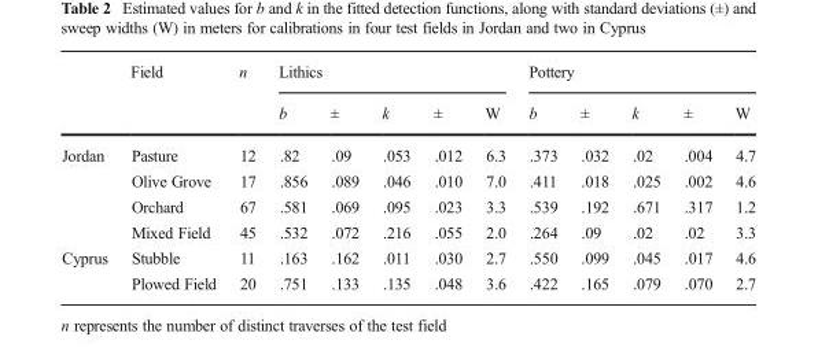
<table><thead><tr><td rowspan="2"></td><td rowspan="2">Field</td><td rowspan="2">n</td><td colspan="5">Lithics</td><td colspan="5">Pottery</td></tr><tr><td>b</td><td>±</td><td>k</td><td>±</td><td>W</td><td>b</td><td>±</td><td>k</td><td>±</td><td>W</td></tr></thead><tbody><tr><td rowspan="4">Jordan</td><td>Pasture</td><td>12</td><td>.82</td><td>.09</td><td>.053</td><td>.012</td><td>6.3</td><td>.373</td><td>.032</td><td>.02</td><td>.004</td><td>4.7</td></tr><tr><td>Olive Grove</td><td>17</td><td>.856</td><td>.089</td><td>.046</td><td>.010</td><td>7.0</td><td>.411</td><td>.018</td><td>.025</td><td>.002</td><td>4.6</td></tr><tr><td>Orchard</td><td>67</td><td>.581</td><td>.069</td><td>.095</td><td>.023</td><td>3.3</td><td>.539</td><td>.192</td><td>.671</td><td>.317</td><td>1.2</td></tr><tr><td>Mixed Field</td><td>45</td><td>.532</td><td>.072</td><td>.216</td><td>.055</td><td>2.0</td><td>.264</td><td>.09</td><td>.02</td><td>.02</td><td>3.3</td></tr><tr><td rowspan="2">Cyprus</td><td>Stubble</td><td>11</td><td>.163</td><td>.162</td><td>.011</td><td>.030</td><td>2.7</td><td>.550</td><td>.099</td><td>.045</td><td>.017</td><td>4.6</td></tr><tr><td>Plowed Field</td><td>20</td><td>.751</td><td>.133</td><td>.135</td><td>.048</td><td>3.6</td><td>.422</td><td>.165</td><td>.079</td><td>.070</td><td>2.7</td></tr></tbody></table>